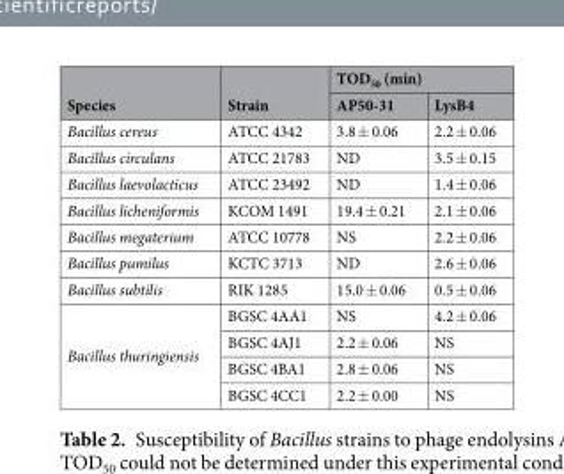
<table><thead><tr><td rowspan="2">Species</td><td rowspan="2">Strain</td><td colspan="2">TOD<sub>50</sub> (min)</td></tr><tr><td>AP50-31</td><td>LysB4</td></tr></thead><tbody><tr><td>Bacillus cereus</td><td>ATCC 4342</td><td>3.8 ± 0.06</td><td>2.2 ± 0.06</td></tr><tr><td>Bacillus circulans</td><td>ATCC 21783</td><td>ND</td><td>3.5 ± 0.15</td></tr><tr><td>Bacillus laevolacticus</td><td>ATCC 23492</td><td>ND</td><td>1.4 ± 0.06</td></tr><tr><td>Bacillus licheniformis</td><td>KCOM 1491</td><td>19.4 ± 0.21</td><td>2.1 ± 0.06</td></tr><tr><td>Bacillus megaterium</td><td>ATCC 10778</td><td>NS</td><td>2.2 ± 0.06</td></tr><tr><td>Bacillus pumilus</td><td>KCTC 3713</td><td>ND</td><td>2.6 ± 0.06</td></tr><tr><td>Bacillus subtilis</td><td>RIK 1285</td><td>15.0 ± 0.06</td><td>0.5 ± 0.06</td></tr><tr><td rowspan="4">Bacillus thuringiensis</td><td>BGSC 4AA1</td><td>NS</td><td>4.2 ± 0.06</td></tr><tr><td>BGSC 4AJ1</td><td>2.2 ± 0.06</td><td>NS</td></tr><tr><td>BGSC 4BA1</td><td>2.8 ± 0.06</td><td>NS</td></tr><tr><td>BGSC 4CC1</td><td>2.2 ± 0.00</td><td>NS</td></tr></tbody></table>